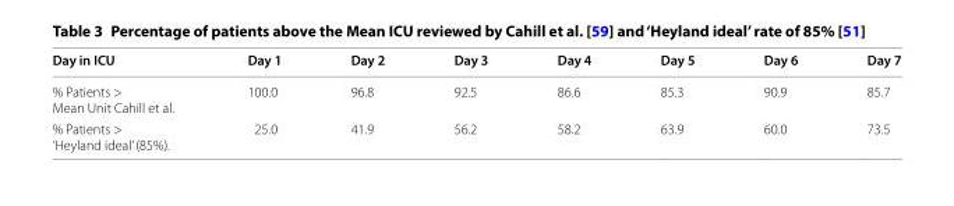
<table><thead><tr><td>Day in ICU</td><td>Day 1</td><td>Day 2</td><td>Day 3</td><td>Day 4</td><td>Day 5</td><td>Day 6</td><td>Day 7</td></tr></thead><tbody><tr><td>% Patients &gt; Mean Unit Cahill et al.</td><td>100.0</td><td>96.8</td><td>92.5</td><td>86.6</td><td>85.3</td><td>90.9</td><td>85.7</td></tr><tr><td>% Patients &gt; ‘Heyland ideal’ (85%).</td><td>25.0</td><td>41.9</td><td>56.2</td><td>58.2</td><td>63.9</td><td>60.0</td><td>73.5</td></tr></tbody></table>